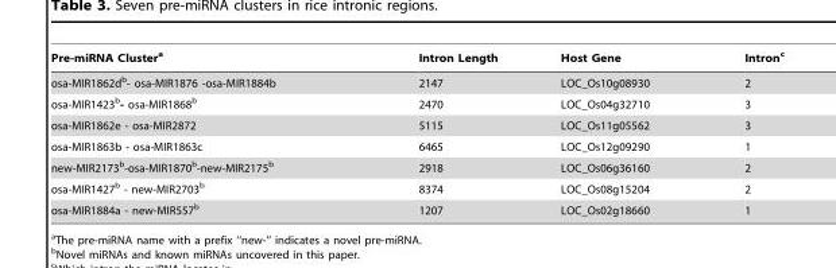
<table><thead><tr><td>Pre-miRNA Cluster<sup>a</sup></td><td>Intron Length</td><td>Host Gene</td><td>Intron<sup>c</sup></td></tr></thead><tbody><tr><td>osa-MIR1862d<sup>b</sup>- osa-MIR1876 -osa-MIR1884b</td><td>2147</td><td>LOC_Os10g08930</td><td>2</td></tr><tr><td>osa-MIR1423<sup>b</sup>- osa-MIR1868<sup>b</sup></td><td>2470</td><td>LOC_Os04g32710</td><td>3</td></tr><tr><td>osa-MIR1862e - osa-MIR2872</td><td>5115</td><td>LOC_Os11g05562</td><td>3</td></tr><tr><td>osa-MIR1863b - osa-MIR1863c</td><td>6465</td><td>LOC_Os12g09290</td><td>1</td></tr><tr><td>new-MIR2173<sup>b</sup>-osa-MIR1870<sup>b</sup>-new-MIR2175<sup>b</sup></td><td>2918</td><td>LOC_Os06g36160</td><td>2</td></tr><tr><td>osa-MIR1427<sup>b</sup> - new-MIR2703<sup>b</sup></td><td>8374</td><td>LOC_Os08g15204</td><td>2</td></tr><tr><td>osa-MIR1884a - new-MIR557<sup>b</sup></td><td>1207</td><td>LOC_Os02g18660</td><td>1</td></tr></tbody></table>